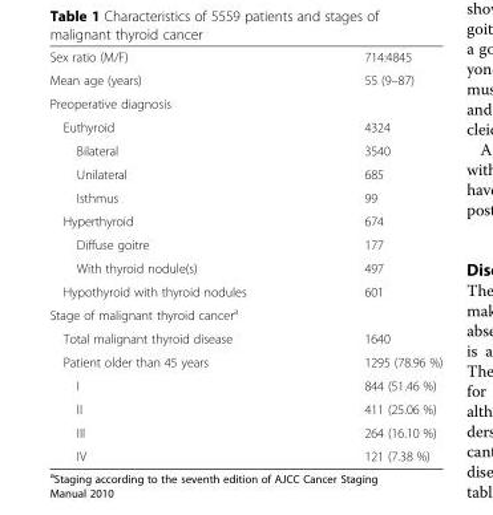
<table><tbody><tr><td>Sex ratio (M/F)</td><td>714:4845</td></tr><tr><td>Mean age (years)</td><td>55 (9–87)</td></tr><tr><td colspan="2">Preoperative diagnosis</td></tr><tr><td>Euthyroid</td><td>4324</td></tr><tr><td>Bilateral</td><td>3540</td></tr><tr><td>Unilateral</td><td>685</td></tr><tr><td>Isthmus</td><td>99</td></tr><tr><td>Hyperthyroid</td><td>674</td></tr><tr><td>Diffuse goitre</td><td>177</td></tr><tr><td>With thyroid nodule(s)</td><td>497</td></tr><tr><td>Hypothyroid with thyroid nodules</td><td>601</td></tr><tr><td colspan="2">Stage of malignant thyroid cancer<sup>a</sup></td></tr><tr><td>Total malignant thyroid disease</td><td>1640</td></tr><tr><td>Patient older than 45 years</td><td>1295 (78.96 %)</td></tr><tr><td>I</td><td>844 (51.46 %)</td></tr><tr><td>II</td><td>411 (25.06 %)</td></tr><tr><td>III</td><td>264 (16.10 %)</td></tr><tr><td>IV</td><td>121 (7.38 %)</td></tr></tbody></table>